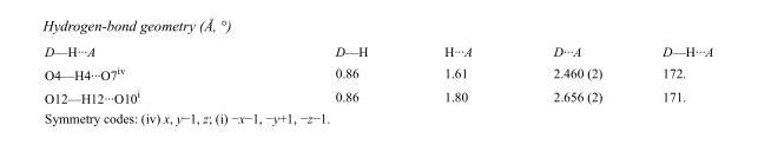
<table><tbody><tr><td>D—H···A</td><td>D—H</td><td>H···A</td><td>D···A</td><td>D—H···A</td></tr><tr><td>O4—H4···O7<sup>iv</sup></td><td>0.86</td><td>1.61</td><td>2.460 (2)</td><td>172.</td></tr><tr><td>O12—H12···O10<sup>i</sup></td><td>0.86</td><td>1.80</td><td>2.656 (2)</td><td>171.</td></tr></tbody></table>